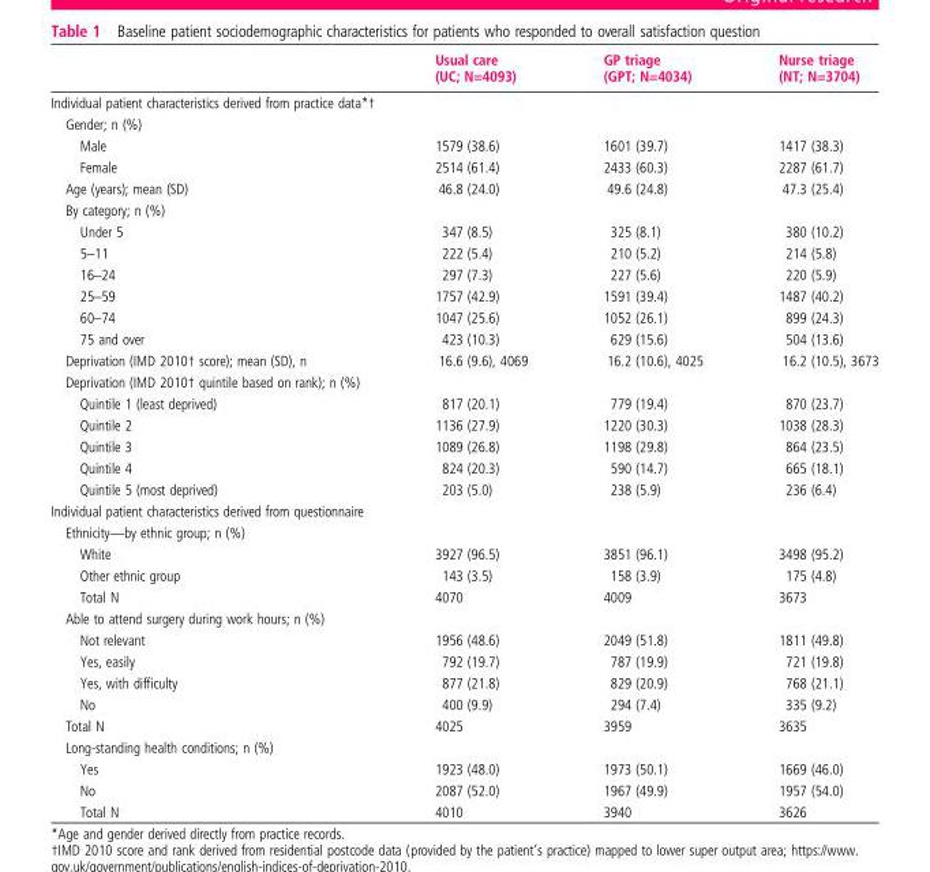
<table><thead><tr><td></td><td>Usual care (UC; N=4093)</td><td>GP triage (GPT; N=4034)</td><td>Nurse triage (NT; N=3704)</td></tr></thead><tbody><tr><td colspan="4">Individual patient characteristics derived from practice data*†</td></tr><tr><td colspan="4">Gender; n (%)</td></tr><tr><td>Male</td><td>1579 (38.6)</td><td>1601 (39.7)</td><td>1417 (38.3)</td></tr><tr><td>Female</td><td>2514 (61.4)</td><td>2433 (60.3)</td><td>2287 (61.7)</td></tr><tr><td>Age (years); mean (SD)</td><td>46.8 (24.0)</td><td>49.6 (24.8)</td><td>47.3 (25.4)</td></tr><tr><td colspan="4">By category; n (%)</td></tr><tr><td>Under 5</td><td>347 (8.5)</td><td>325 (8.1)</td><td>380 (10.2)</td></tr><tr><td>5–11</td><td>222 (5.4)</td><td>210 (5.2)</td><td>214 (5.8)</td></tr><tr><td>16–24</td><td>297 (7.3)</td><td>227 (5.6)</td><td>220 (5.9)</td></tr><tr><td>25–59</td><td>1757 (42.9)</td><td>1591 (39.4)</td><td>1487 (40.2)</td></tr><tr><td>60–74</td><td>1047 (25.6)</td><td>1052 (26.1)</td><td>899 (24.3)</td></tr><tr><td>75 and over</td><td>423 (10.3)</td><td>629 (15.6)</td><td>504 (13.6)</td></tr><tr><td>Deprivation (IMD 2010† score); mean (SD), n</td><td>16.6 (9.6), 4069</td><td>16.2 (10.6), 4025</td><td>16.2 (10.5), 3673</td></tr><tr><td colspan="4">Deprivation (IMD 2010† quintile based on rank); n (%)</td></tr><tr><td>Quintile 1 (least deprived)</td><td>817 (20.1)</td><td>779 (19.4)</td><td>870 (23.7)</td></tr><tr><td>Quintile 2</td><td>1136 (27.9)</td><td>1220 (30.3)</td><td>1038 (28.3)</td></tr><tr><td>Quintile 3</td><td>1089 (26.8)</td><td>1198 (29.8)</td><td>864 (23.5)</td></tr><tr><td>Quintile 4</td><td>824 (20.3)</td><td>590 (14.7)</td><td>665 (18.1)</td></tr><tr><td>Quintile 5 (most deprived)</td><td>203 (5.0)</td><td>238 (5.9)</td><td>236 (6.4)</td></tr><tr><td colspan="4">Individual patient characteristics derived from questionnaire</td></tr><tr><td colspan="4">Ethnicity—by ethnic group; n (%)</td></tr><tr><td>White</td><td>3927 (96.5)</td><td>3851 (96.1)</td><td>3498 (95.2)</td></tr><tr><td>Other ethnic group</td><td>143 (3.5)</td><td>158 (3.9)</td><td>175 (4.8)</td></tr><tr><td>Total N</td><td>4070</td><td>4009</td><td>3673</td></tr><tr><td colspan="4">Able to attend surgery during work hours; n (%)</td></tr><tr><td>Not relevant</td><td>1956 (48.6)</td><td>2049 (51.8)</td><td>1811 (49.8)</td></tr><tr><td>Yes, easily</td><td>792 (19.7)</td><td>787 (19.9)</td><td>721 (19.8)</td></tr><tr><td>Yes, with difficulty</td><td>877 (21.8)</td><td>829 (20.9)</td><td>768 (21.1)</td></tr><tr><td>No</td><td>400 (9.9)</td><td>294 (7.4)</td><td>335 (9.2)</td></tr><tr><td>Total N</td><td>4025</td><td>3959</td><td>3635</td></tr><tr><td colspan="4">Long-standing health conditions; n (%)</td></tr><tr><td>Yes</td><td>1923 (48.0)</td><td>1973 (50.1)</td><td>1669 (46.0)</td></tr><tr><td>No</td><td>2087 (52.0)</td><td>1967 (49.9)</td><td>1957 (54.0)</td></tr><tr><td>Total N</td><td>4010</td><td>3940</td><td>3626</td></tr></tbody></table>